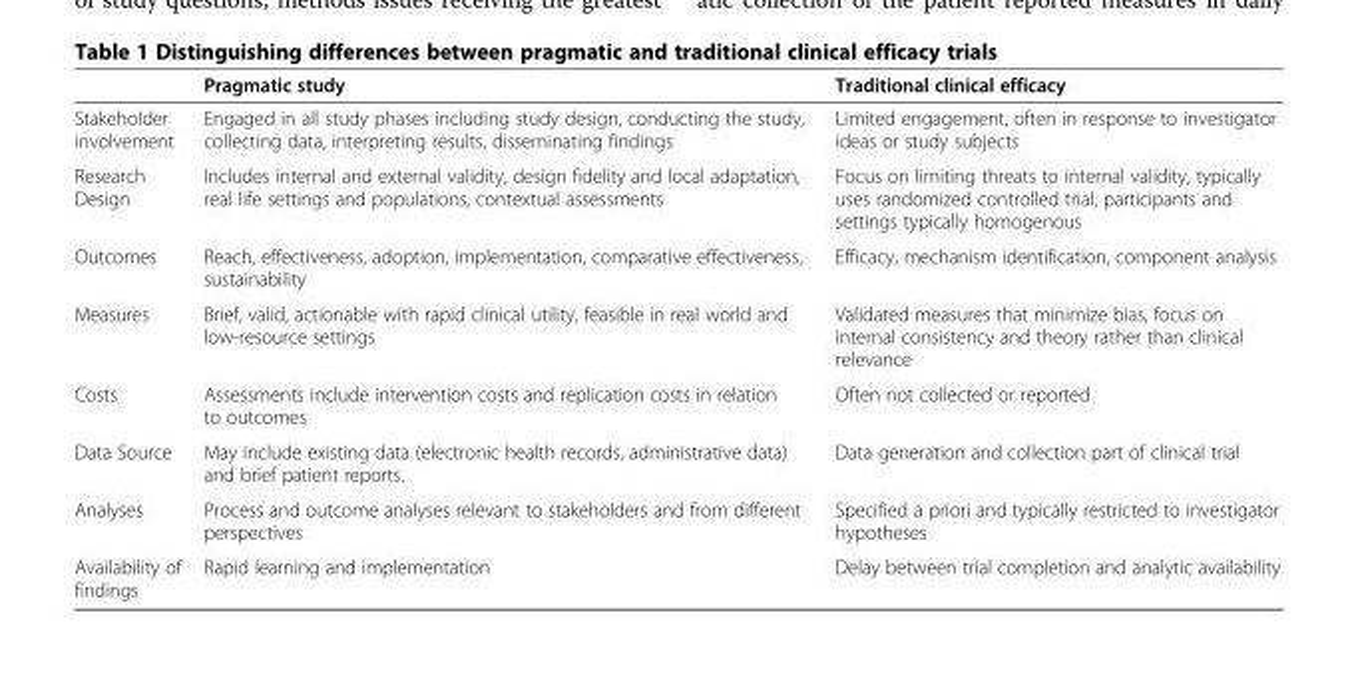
<table><thead><tr><td></td><td>Pragmatic study</td><td>Traditional clinical efficacy</td></tr></thead><tbody><tr><td>Stakeholder involvement</td><td>Engaged in all study phases including study design, conducting the study, collecting data, interpreting results, disseminating findings</td><td>Limited engagement, often in response to investigator ideas or study subjects</td></tr><tr><td>Research Design</td><td>Includes internal and external validity, design fidelity and local adaptation, real life settings and populations, contextual assessments</td><td>Focus on limiting threats to internal validity, typically uses randomized controlled trial, participants and settings typically homogenous</td></tr><tr><td>Outcomes</td><td>Reach, effectiveness, adoption, implementation, comparative effectiveness, sustainability</td><td>Efficacy, mechanism identification, component analysis</td></tr><tr><td>Measures</td><td>Brief, valid, actionable with rapid clinical utility, feasible in real world and low-resource settings</td><td>Validated measures that minimize bias, focus on internal consistency and theory rather than clinical relevance</td></tr><tr><td>Costs</td><td>Assessments include intervention costs and replication costs in relation to outcomes</td><td>Often not collected or reported</td></tr><tr><td>Data Source</td><td>May include existing data (electronic health records, administrative data) and brief patient reports.</td><td>Data generation and collection part of clinical trial</td></tr><tr><td>Analyses</td><td>Process and outcome analyses relevant to stakeholders and from different perspectives</td><td>Specified a priori and typically restricted to investigator hypotheses</td></tr><tr><td>Availability of findings</td><td>Rapid learning and implementation</td><td>Delay between trial completion and analytic availability</td></tr></tbody></table>